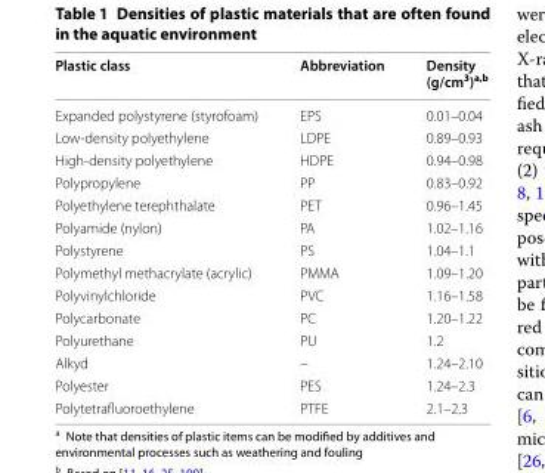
<table><thead><tr><td>Plastic class</td><td>Abbreviation</td><td>Density (g/cm<sup>3</sup>)<sup>a,b</sup></td></tr></thead><tbody><tr><td>Expanded polystyrene (styrofoam)</td><td>EPS</td><td>0.01–0.04</td></tr><tr><td>Low‑density polyethylene</td><td>LDPE</td><td>0.89–0.93</td></tr><tr><td>High‑density polyethylene</td><td>HDPE</td><td>0.94–0.98</td></tr><tr><td>Polypropylene</td><td>PP</td><td>0.83–0.92</td></tr><tr><td>Polyethylene terephthalate</td><td>PET</td><td>0.96–1.45</td></tr><tr><td>Polyamide (nylon)</td><td>PA</td><td>1.02–1.16</td></tr><tr><td>Polystyrene</td><td>PS</td><td>1.04–1.1</td></tr><tr><td>Polymethyl methacrylate (acrylic)</td><td>PMMA</td><td>1.09–1.20</td></tr><tr><td>Polyvinylchloride</td><td>PVC</td><td>1.16–1.58</td></tr><tr><td>Polycarbonate</td><td>PC</td><td>1.20–1.22</td></tr><tr><td>Polyurethane</td><td>PU</td><td>1.2</td></tr><tr><td>Alkyd</td><td>–</td><td>1.24–2.10</td></tr><tr><td>Polyester</td><td>PES</td><td>1.24–2.3</td></tr><tr><td>Polytetrafluoroethylene</td><td>PTFE</td><td>2.1–2.3</td></tr></tbody></table>